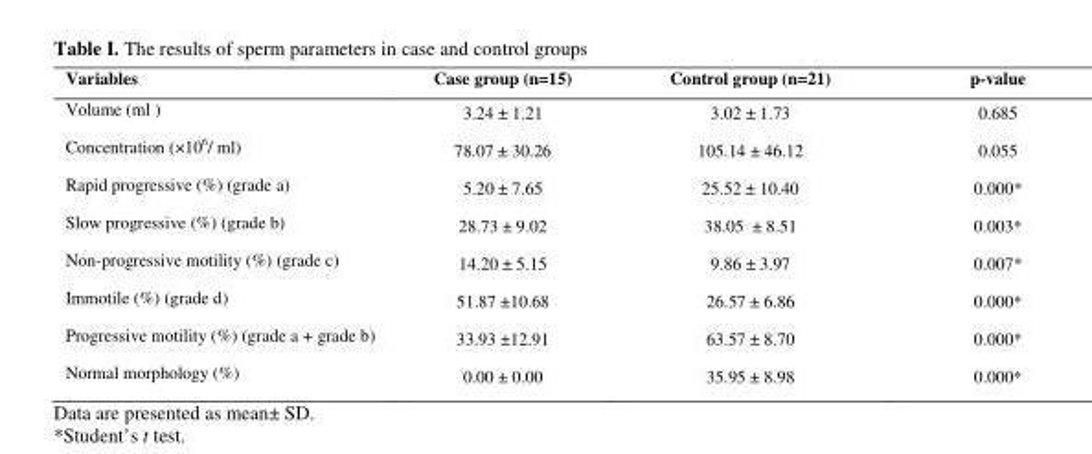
<table><thead><tr><td>Variables</td><td>Case group (n=15)</td><td>Control group (n=21)</td><td>p-value</td></tr></thead><tbody><tr><td>Volume (ml )</td><td>3.24 ± 1.21</td><td>3.02 ± 1.73</td><td>0.685</td></tr><tr><td>Concentration (×10<sup>6</sup>/ ml)</td><td>78.07 ± 30.26</td><td>105.14 ± 46.12</td><td>0.055</td></tr><tr><td>Rapid progressive (%) (grade a)</td><td>5.20 ± 7.65</td><td>25.52 ± 10.40</td><td>0.000*</td></tr><tr><td>Slow progressive (%) (grade b)</td><td>28.73 ± 9.02</td><td>38.05 ± 8.51</td><td>0.003*</td></tr><tr><td>Non-progressive motility (%) (grade c)</td><td>14.20 ± 5.15</td><td>9.86 ± 3.97</td><td>0.007*</td></tr><tr><td>Immotile (%) (grade d)</td><td>51.87 ±10.68</td><td>26.57 ± 6.86</td><td>0.000*</td></tr><tr><td>Progressive motility (%) (grade a + grade b)</td><td>33.93 ±12.91</td><td>63.57 ± 8.70</td><td>0.000*</td></tr><tr><td>Normal morphology (%)</td><td>0.00 ± 0.00</td><td>35.95 ± 8.98</td><td>0.000*</td></tr></tbody></table>